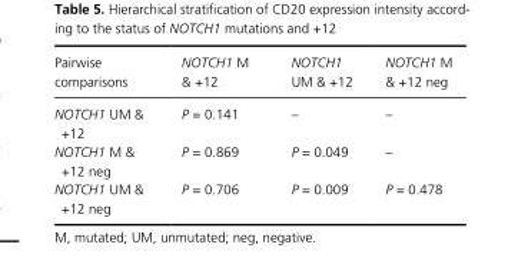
<table><thead><tr><td>Pairwise comparisons</td><td>NOTCH1 M &amp; +12</td><td>NOTCH1 UM &amp; +12</td><td>NOTCH1 M &amp; +12 neg</td></tr></thead><tbody><tr><td>NOTCH1 UM &amp; +12</td><td>P = 0.141</td><td>–</td><td>–</td></tr><tr><td>NOTCH1 M &amp; +12 neg</td><td>P = 0.869</td><td>P = 0.049</td><td>–</td></tr><tr><td>NOTCH1 UM &amp; +12 neg</td><td>P = 0.706</td><td>P = 0.009</td><td>P = 0.478</td></tr></tbody></table>